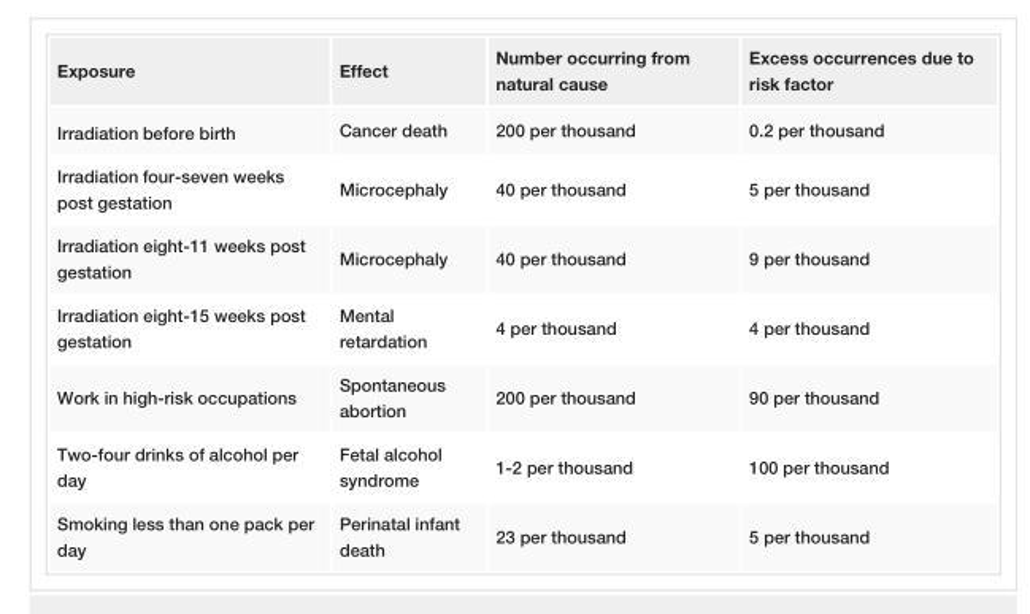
<table><tbody><tr><td>Exposure</td><td>Effect</td><td>Number occurring from natural cause</td><td>Excess occurrences due to risk factor</td></tr><tr><td>Irradiation before birth</td><td>Cancer death</td><td>200 per thousand</td><td>0.2 per thousand</td></tr><tr><td>Irradiation four-seven weeks post gestation</td><td>Microcephaly</td><td>40 per thousand</td><td>5 per thousand</td></tr><tr><td>Irradiation eight-11 weeks post gestation</td><td>Microcephaly</td><td>40 per thousand</td><td>9 per thousand</td></tr><tr><td>Irradiation eight-15 weeks post gestation</td><td>Mental retardation</td><td>4 per thousand</td><td>4 per thousand</td></tr><tr><td>Work in high-risk occupations</td><td>Spontaneous abortion</td><td>200 per thousand</td><td>90 per thousand</td></tr><tr><td>Two-four drinks of alcohol per day</td><td>Fetal alcohol syndrome</td><td>1-2 per thousand</td><td>100 per thousand</td></tr><tr><td>Smoking less than one pack per day</td><td>Perinatal infant death</td><td>23 per thousand</td><td>5 per thousand</td></tr></tbody></table>